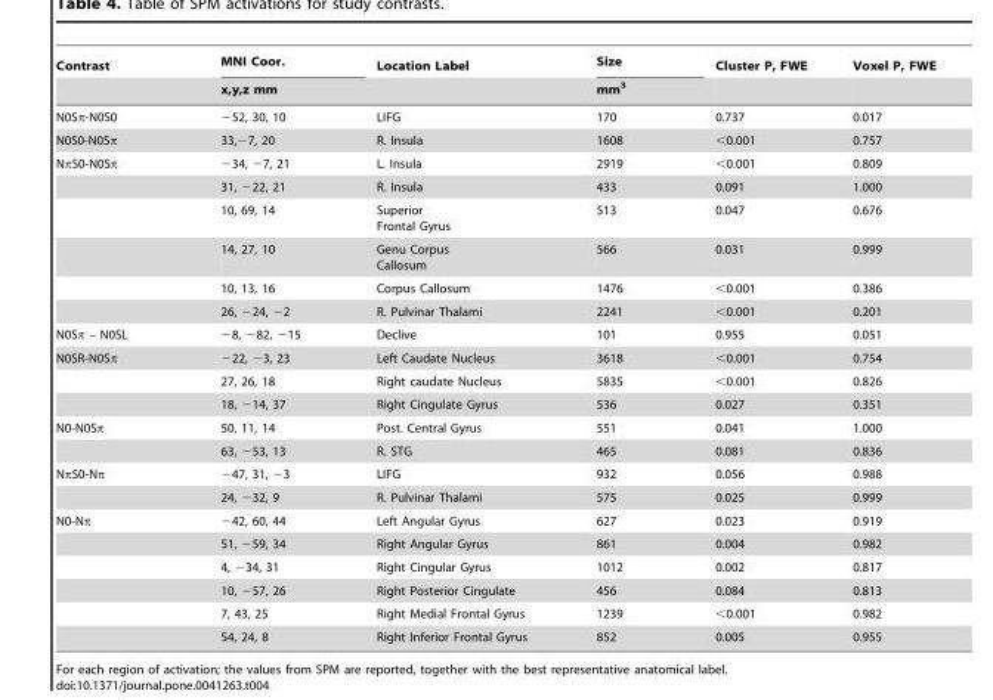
<table><thead><tr><td rowspan="2">Contrast</td><td rowspan="2">MNI Coor. x,y,z mm</td><td rowspan="2">Location Label</td><td rowspan="2">Size mm<sup>3</sup></td><td rowspan="2">Cluster P, FWE</td><td rowspan="2">Voxel P, FWE</td></tr><tr></tr></thead><tbody><tr><td>N0Sπ-N0S0</td><td>−52, 30, 10</td><td>LIFG</td><td>170</td><td>0.737</td><td>0.017</td></tr><tr><td>N0S0-N0Sπ</td><td>33,−7, 20</td><td>R. Insula</td><td>1608</td><td>&lt;0.001</td><td>0.757</td></tr><tr><td rowspan="6">NπS0-N0Sπ</td><td>−34, −7, 21</td><td>L. Insula</td><td>2919</td><td>&lt;0.001</td><td>0.809</td></tr><tr><td>31, −22, 21</td><td>R. Insula</td><td>433</td><td>0.091</td><td>1.000</td></tr><tr><td>10, 69, 14</td><td>Superior Frontal Gyrus</td><td>513</td><td>0.047</td><td>0.676</td></tr><tr><td>14, 27, 10</td><td>Genu Corpus Callosum</td><td>566</td><td>0.031</td><td>0.999</td></tr><tr><td>10, 13, 16</td><td>Corpus Callosum</td><td>1476</td><td>&lt;0.001</td><td>0.386</td></tr><tr><td>26, −24, −2</td><td>R. Pulvinar Thalami</td><td>2241</td><td>&lt;0.001</td><td>0.201</td></tr><tr><td>N0Sπ – N0SL</td><td>−8, −82, −15</td><td>Declive</td><td>101</td><td>0.955</td><td>0.051</td></tr><tr><td rowspan="3">N0SR-N0Sπ</td><td>−22, −3, 23</td><td>Left Caudate Nucleus</td><td>3618</td><td>&lt;0.001</td><td>0.754</td></tr><tr><td>27, 26, 18</td><td>Right caudate Nucleus</td><td>5835</td><td>&lt;0.001</td><td>0.826</td></tr><tr><td>18, −14, 37</td><td>Right Cingulate Gyrus</td><td>536</td><td>0.027</td><td>0.351</td></tr><tr><td rowspan="2">N0-N0Sπ</td><td>50, 11, 14</td><td>Post. Central Gyrus</td><td>551</td><td>0.041</td><td>1.000</td></tr><tr><td>63, −53, 13</td><td>R. STG</td><td>465</td><td>0.081</td><td>0.836</td></tr><tr><td rowspan="2">NπS0-Nπ</td><td>−47, 31, −3</td><td>LIFG</td><td>932</td><td>0.056</td><td>0.988</td></tr><tr><td>24, −32, 9</td><td>R. Pulvinar Thalami</td><td>575</td><td>0.025</td><td>0.999</td></tr><tr><td rowspan="6">N0-Nπ</td><td>−42, 60, 44</td><td>Left Angular Gyrus</td><td>627</td><td>0.023</td><td>0.919</td></tr><tr><td>51, −59, 34</td><td>Right Angular Gyrus</td><td>861</td><td>0.004</td><td>0.982</td></tr><tr><td>4, −34, 31</td><td>Right Cingular Gyrus</td><td>1012</td><td>0.002</td><td>0.817</td></tr><tr><td>10, −57, 26</td><td>Right Posterior Cingulate</td><td>456</td><td>0.084</td><td>0.813</td></tr><tr><td>7, 43, 25</td><td>Right Medial Frontal Gyrus</td><td>1239</td><td>&lt;0.001</td><td>0.982</td></tr><tr><td>54, 24, 8</td><td>Right Inferior Frontal Gyrus</td><td>852</td><td>0.005</td><td>0.955</td></tr></tbody></table>